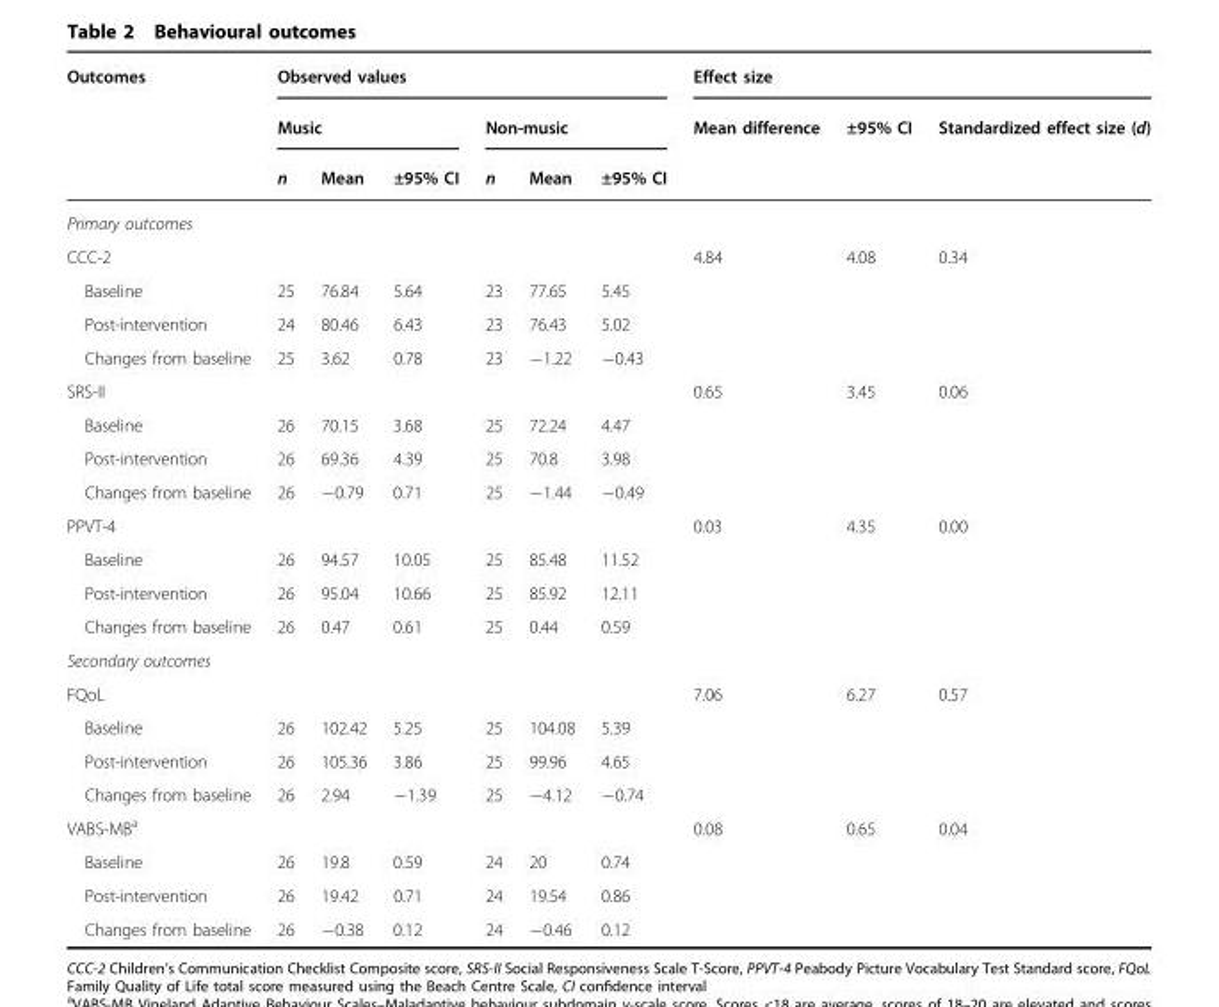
<table><thead><tr><td rowspan="3">Outcomes</td><td colspan="6">Observed values</td><td colspan="3">Effect size</td></tr><tr><td colspan="3">Music</td><td colspan="3">Non-music</td><td rowspan="2">Mean difference</td><td rowspan="2">±95% CI</td><td rowspan="2">Standardized effect size (d)</td></tr><tr><td>n</td><td>Mean</td><td>±95% CI</td><td>n</td><td>Mean</td><td>±95% CI</td></tr></thead><tbody><tr><td colspan="10">Primary outcomes</td></tr><tr><td>CCC-2</td><td></td><td></td><td></td><td></td><td></td><td></td><td>4.84</td><td>4.08</td><td>0.34</td></tr><tr><td>Baseline</td><td>25</td><td>76.84</td><td>5.64</td><td>23</td><td>77.65</td><td>5.45</td><td></td><td></td><td></td></tr><tr><td>Post-intervention</td><td>24</td><td>80.46</td><td>6.43</td><td>23</td><td>76.43</td><td>5.02</td><td></td><td></td><td></td></tr><tr><td>Changes from baseline</td><td>25</td><td>3.62</td><td>0.78</td><td>23</td><td>−1.22</td><td>−0.43</td><td></td><td></td><td></td></tr><tr><td>SRS-II</td><td></td><td></td><td></td><td></td><td></td><td></td><td>0.65</td><td>3.45</td><td>0.06</td></tr><tr><td>Baseline</td><td>26</td><td>70.15</td><td>3.68</td><td>25</td><td>72.24</td><td>4.47</td><td></td><td></td><td></td></tr><tr><td>Post-intervention</td><td>26</td><td>69.36</td><td>4.39</td><td>25</td><td>70.8</td><td>3.98</td><td></td><td></td><td></td></tr><tr><td>Changes from baseline</td><td>26</td><td>−0.79</td><td>0.71</td><td>25</td><td>−1.44</td><td>−0.49</td><td></td><td></td><td></td></tr><tr><td>PPVT-4</td><td></td><td></td><td></td><td></td><td></td><td></td><td>0.03</td><td>4.35</td><td>0.00</td></tr><tr><td>Baseline</td><td>26</td><td>94.57</td><td>10.05</td><td>25</td><td>85.48</td><td>11.52</td><td></td><td></td><td></td></tr><tr><td>Post-intervention</td><td>26</td><td>95.04</td><td>10.66</td><td>25</td><td>85.92</td><td>12.11</td><td></td><td></td><td></td></tr><tr><td>Changes from baseline</td><td>26</td><td>0.47</td><td>0.61</td><td>25</td><td>0.44</td><td>0.59</td><td></td><td></td><td></td></tr><tr><td colspan="10">Secondary outcomes</td></tr><tr><td>FQoL</td><td></td><td></td><td></td><td></td><td></td><td></td><td>7.06</td><td>6.27</td><td>0.57</td></tr><tr><td>Baseline</td><td>26</td><td>102.42</td><td>5.25</td><td>25</td><td>104.08</td><td>5.39</td><td></td><td></td><td></td></tr><tr><td>Post-intervention</td><td>26</td><td>105.36</td><td>3.86</td><td>25</td><td>99.96</td><td>4.65</td><td></td><td></td><td></td></tr><tr><td>Changes from baseline</td><td>26</td><td>2.94</td><td>−1.39</td><td>25</td><td>−4.12</td><td>−0.74</td><td></td><td></td><td></td></tr><tr><td>VABS-MB<sup>a</sup></td><td></td><td></td><td></td><td></td><td></td><td></td><td>0.08</td><td>0.65</td><td>0.04</td></tr><tr><td>Baseline</td><td>26</td><td>19.8</td><td>0.59</td><td>24</td><td>20</td><td>0.74</td><td></td><td></td><td></td></tr><tr><td>Post-intervention</td><td>26</td><td>19.42</td><td>0.71</td><td>24</td><td>19.54</td><td>0.86</td><td></td><td></td><td></td></tr><tr><td>Changes from baseline</td><td>26</td><td>−0.38</td><td>0.12</td><td>24</td><td>−0.46</td><td>0.12</td><td></td><td></td><td></td></tr></tbody></table>